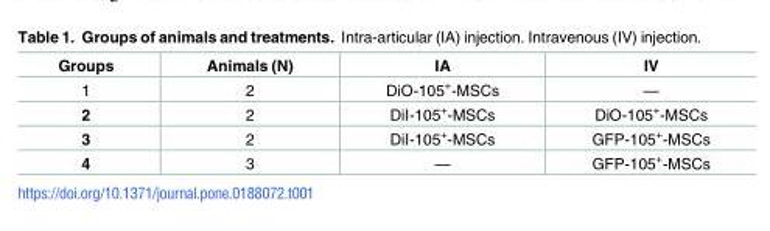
<table><thead><tr><td>Groups</td><td>Animals (N)</td><td>IA</td><td>IV</td></tr></thead><tbody><tr><td>1</td><td>2</td><td>DiO-105<sup>+</sup>-MSCs</td><td>—</td></tr><tr><td>2</td><td>2</td><td>DiI-105<sup>+</sup>-MSCs</td><td>DiO-105<sup>+</sup>-MSCs</td></tr><tr><td>3</td><td>2</td><td>DiI-105<sup>+</sup>-MSCs</td><td>GFP-105<sup>+</sup>-MSCs</td></tr><tr><td>4</td><td>3</td><td>—</td><td>GFP-105<sup>+</sup>-MSCs</td></tr></tbody></table>